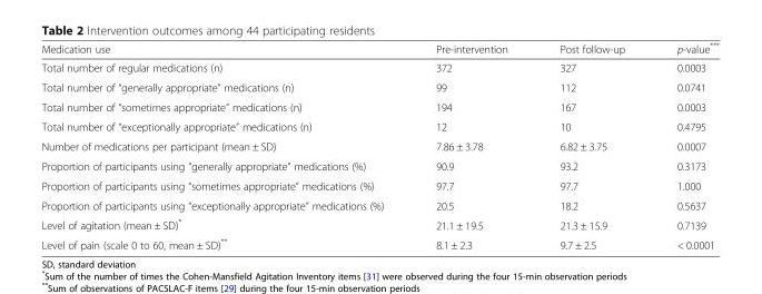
<table><thead><tr><td>Medication use</td><td>Pre-intervention</td><td>Post follow-up</td><td>p-value***</td></tr></thead><tbody><tr><td>Total number of regular medications (n)</td><td>372</td><td>327</td><td>0.0003</td></tr><tr><td>Total number of “generally appropriate” medications (n)</td><td>99</td><td>112</td><td>0.0741</td></tr><tr><td>Total number of “sometimes appropriate” medications (n)</td><td>194</td><td>167</td><td>0.0003</td></tr><tr><td>Total number of “exceptionally appropriate” medications (n)</td><td>12</td><td>10</td><td>0.4795</td></tr><tr><td>Number of medications per participant (mean ± SD)</td><td>7.86 ± 3.78</td><td>6.82 ± 3.75</td><td>0.0007</td></tr><tr><td>Proportion of participants using “generally appropriate” medications (%)</td><td>90.9</td><td>93.2</td><td>0.3173</td></tr><tr><td>Proportion of participants using “sometimes appropriate” medications (%)</td><td>97.7</td><td>97.7</td><td>1.000</td></tr><tr><td>Proportion of participants using “exceptionally appropriate” medications (%)</td><td>20.5</td><td>18.2</td><td>0.5637</td></tr><tr><td>Level of agitation (mean ± SD)*</td><td>21.1 ± 19.5</td><td>21.3 ± 15.9</td><td>0.7139</td></tr><tr><td>Level of pain (scale 0 to 60, mean ± SD)**</td><td>8.1 ± 2.3</td><td>9.7 ± 2.5</td><td>&lt; 0.0001</td></tr></tbody></table>